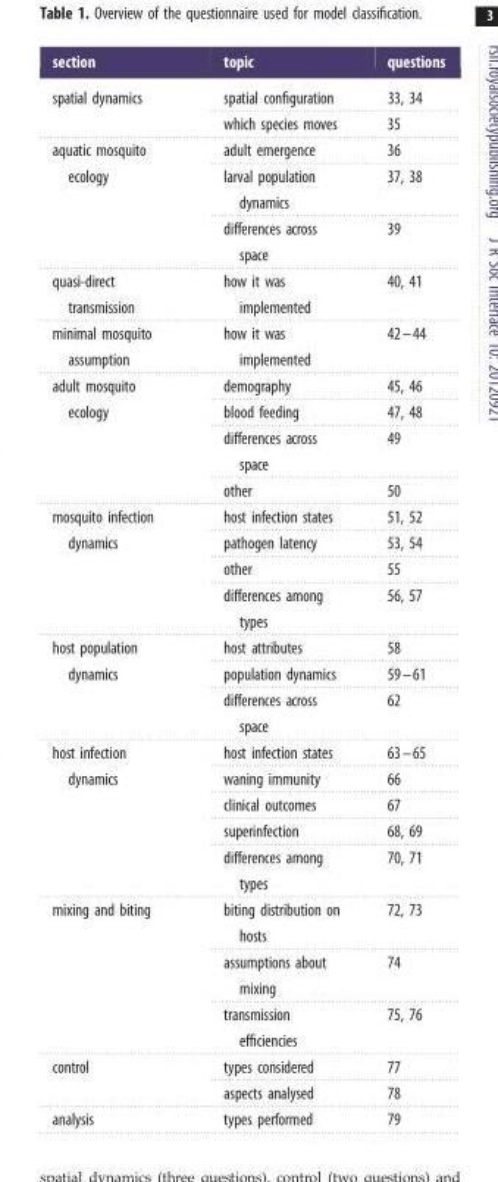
<table><thead><tr><td>section</td><td>topic</td><td>questions</td></tr></thead><tbody><tr><td rowspan="2">spatial dynamics</td><td>spatial configuration</td><td>33, 34</td></tr><tr><td>which species moves</td><td>35</td></tr><tr><td rowspan="3">aquatic mosquito ecology</td><td>adult emergence</td><td>36</td></tr><tr><td>larval population dynamics</td><td>37, 38</td></tr><tr><td>differences across space</td><td>39</td></tr><tr><td>quasi-direct transmission</td><td>how it was implemented</td><td>40, 41</td></tr><tr><td>minimal mosquito assumption</td><td>how it was implemented</td><td>42–44</td></tr><tr><td rowspan="4">adult mosquito ecology</td><td>demography</td><td>45, 46</td></tr><tr><td>blood feeding</td><td>47, 48</td></tr><tr><td>differences across space</td><td>49</td></tr><tr><td>other</td><td>50</td></tr><tr><td rowspan="4">mosquito infection dynamics</td><td>host infection states</td><td>51, 52</td></tr><tr><td>pathogen latency</td><td>53, 54</td></tr><tr><td>other</td><td>55</td></tr><tr><td>differences among types</td><td>56, 57</td></tr><tr><td rowspan="3">host population dynamics</td><td>host attributes</td><td>58</td></tr><tr><td>population dynamics</td><td>59–61</td></tr><tr><td>differences across space</td><td>62</td></tr><tr><td rowspan="5">host infection dynamics</td><td>host infection states</td><td>63–65</td></tr><tr><td>waning immunity</td><td>66</td></tr><tr><td>clinical outcomes</td><td>67</td></tr><tr><td>superinfection</td><td>68, 69</td></tr><tr><td>differences among types</td><td>70, 71</td></tr><tr><td rowspan="3">mixing and biting</td><td>biting distribution on hosts</td><td>72, 73</td></tr><tr><td>assumptions about mixing</td><td>74</td></tr><tr><td>transmission efficiencies</td><td>75, 76</td></tr><tr><td rowspan="2">control</td><td>types considered</td><td>77</td></tr><tr><td>aspects analysed</td><td>78</td></tr><tr><td>analysis</td><td>types performed</td><td>79</td></tr></tbody></table>